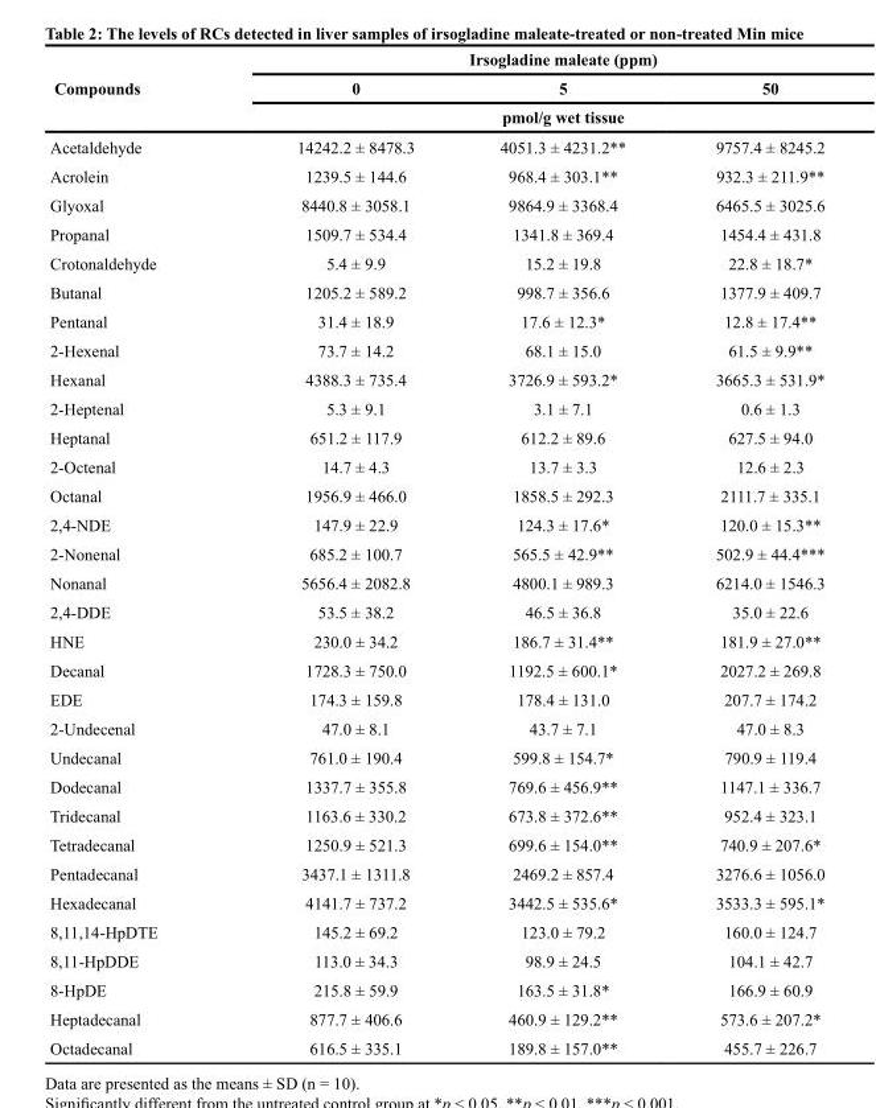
<table><thead><tr><td rowspan="3">Compounds</td><td colspan="3">Irsogladine maleate (ppm)</td></tr><tr><td>0</td><td>5</td><td>50</td></tr><tr><td colspan="3">pmol/g wet tissue</td></tr></thead><tbody><tr><td>Acetaldehyde</td><td>14242.2 ± 8478.3</td><td>4051.3 ± 4231.2**</td><td>9757.4 ± 8245.2</td></tr><tr><td>Acrolein</td><td>1239.5 ± 144.6</td><td>968.4 ± 303.1**</td><td>932.3 ± 211.9**</td></tr><tr><td>Glyoxal</td><td>8440.8 ± 3058.1</td><td>9864.9 ± 3368.4</td><td>6465.5 ± 3025.6</td></tr><tr><td>Propanal</td><td>1509.7 ± 534.4</td><td>1341.8 ± 369.4</td><td>1454.4 ± 431.8</td></tr><tr><td>Crotonaldehyde</td><td>5.4 ± 9.9</td><td>15.2 ± 19.8</td><td>22.8 ± 18.7*</td></tr><tr><td>Butanal</td><td>1205.2 ± 589.2</td><td>998.7 ± 356.6</td><td>1377.9 ± 409.7</td></tr><tr><td>Pentanal</td><td>31.4 ± 18.9</td><td>17.6 ± 12.3*</td><td>12.8 ± 17.4**</td></tr><tr><td>2-Hexenal</td><td>73.7 ± 14.2</td><td>68.1 ± 15.0</td><td>61.5 ± 9.9**</td></tr><tr><td>Hexanal</td><td>4388.3 ± 735.4</td><td>3726.9 ± 593.2*</td><td>3665.3 ± 531.9*</td></tr><tr><td>2-Heptenal</td><td>5.3 ± 9.1</td><td>3.1 ± 7.1</td><td>0.6 ± 1.3</td></tr><tr><td>Heptanal</td><td>651.2 ± 117.9</td><td>612.2 ± 89.6</td><td>627.5 ± 94.0</td></tr><tr><td>2-Octenal</td><td>14.7 ± 4.3</td><td>13.7 ± 3.3</td><td>12.6 ± 2.3</td></tr><tr><td>Octanal</td><td>1956.9 ± 466.0</td><td>1858.5 ± 292.3</td><td>2111.7 ± 335.1</td></tr><tr><td>2,4-NDE</td><td>147.9 ± 22.9</td><td>124.3 ± 17.6*</td><td>120.0 ± 15.3**</td></tr><tr><td>2-Nonenal</td><td>685.2 ± 100.7</td><td>565.5 ± 42.9**</td><td>502.9 ± 44.4***</td></tr><tr><td>Nonanal</td><td>5656.4 ± 2082.8</td><td>4800.1 ± 989.3</td><td>6214.0 ± 1546.3</td></tr><tr><td>2,4-DDE</td><td>53.5 ± 38.2</td><td>46.5 ± 36.8</td><td>35.0 ± 22.6</td></tr><tr><td>HNE</td><td>230.0 ± 34.2</td><td>186.7 ± 31.4**</td><td>181.9 ± 27.0**</td></tr><tr><td>Decanal</td><td>1728.3 ± 750.0</td><td>1192.5 ± 600.1*</td><td>2027.2 ± 269.8</td></tr><tr><td>EDE</td><td>174.3 ± 159.8</td><td>178.4 ± 131.0</td><td>207.7 ± 174.2</td></tr><tr><td>2-Undecenal</td><td>47.0 ± 8.1</td><td>43.7 ± 7.1</td><td>47.0 ± 8.3</td></tr><tr><td>Undecanal</td><td>761.0 ± 190.4</td><td>599.8 ± 154.7*</td><td>790.9 ± 119.4</td></tr><tr><td>Dodecanal</td><td>1337.7 ± 355.8</td><td>769.6 ± 456.9**</td><td>1147.1 ± 336.7</td></tr><tr><td>Tridecanal</td><td>1163.6 ± 330.2</td><td>673.8 ± 372.6**</td><td>952.4 ± 323.1</td></tr><tr><td>Tetradecanal</td><td>1250.9 ± 521.3</td><td>699.6 ± 154.0**</td><td>740.9 ± 207.6*</td></tr><tr><td>Pentadecanal</td><td>3437.1 ± 1311.8</td><td>2469.2 ± 857.4</td><td>3276.6 ± 1056.0</td></tr><tr><td>Hexadecanal</td><td>4141.7 ± 737.2</td><td>3442.5 ± 535.6*</td><td>3533.3 ± 595.1*</td></tr><tr><td>8,11,14-HpDTE</td><td>145.2 ± 69.2</td><td>123.0 ± 79.2</td><td>160.0 ± 124.7</td></tr><tr><td>8,11-HpDDE</td><td>113.0 ± 34.3</td><td>98.9 ± 24.5</td><td>104.1 ± 42.7</td></tr><tr><td>8-HpDE</td><td>215.8 ± 59.9</td><td>163.5 ± 31.8*</td><td>166.9 ± 60.9</td></tr><tr><td>Heptadecanal</td><td>877.7 ± 406.6</td><td>460.9 ± 129.2**</td><td>573.6 ± 207.2*</td></tr><tr><td>Octadecanal</td><td>616.5 ± 335.1</td><td>189.8 ± 157.0**</td><td>455.7 ± 226.7</td></tr></tbody></table>